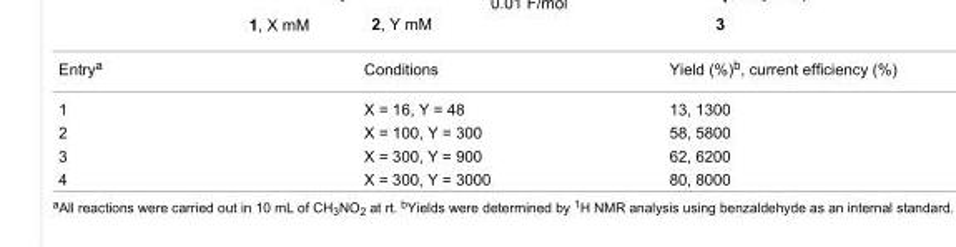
<table><tbody><tr><td>Entry<sup>a</sup></td><td>Conditions</td><td>Yield (%)<sup>b</sup>, current efficiency (%)</td></tr><tr><td>1</td><td>X = 16, Y = 48</td><td>13, 1300</td></tr><tr><td>2</td><td>X = 100, Y = 300</td><td>58, 5800</td></tr><tr><td>3</td><td>X = 300, Y = 900</td><td>62, 6200</td></tr><tr><td>4</td><td>X = 300, Y = 3000</td><td>80, 8000</td></tr></tbody></table>